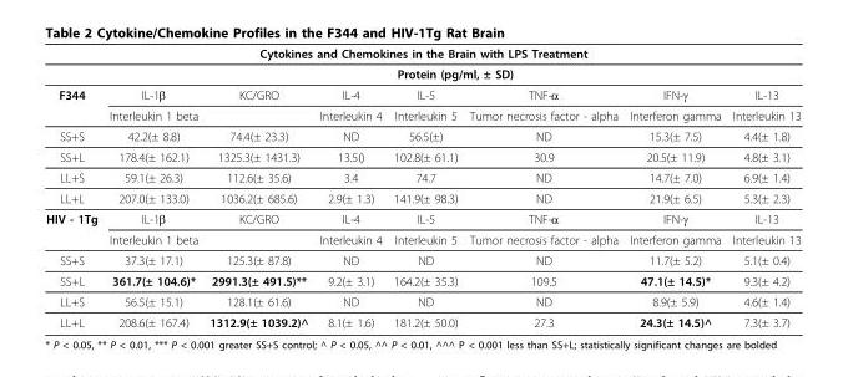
<table><thead><tr><td colspan="8">Cytokines and Chemokines in the Brain with LPS Treatment</td></tr><tr><td rowspan="2">F344</td><td colspan="7">Protein (pg/ml, ± SD)</td></tr><tr><td>IL-1β</td><td>KC/GRO</td><td>IL-4</td><td>IL-5</td><td>TNF-α</td><td>IFN-γ</td><td>IL-13</td></tr></thead><tbody><tr><td></td><td>Interleukin 1 beta</td><td></td><td>Interleukin 4</td><td>Interleukin 5</td><td>Tumor necrosis factor - alpha</td><td>Interferon gamma</td><td>Interleukin 13</td></tr><tr><td>SS+S</td><td>42.2(± 8.8)</td><td>74.4(± 23.3)</td><td>ND</td><td>56.5(±)</td><td>ND</td><td>15.3(± 7.5)</td><td>4.4(± 1.8)</td></tr><tr><td>SS+L</td><td>178.4(± 162.1)</td><td>1325.3(± 1431.3)</td><td>13.5()</td><td>102.8(± 61.1)</td><td>30.9</td><td>20.5(± 11.9)</td><td>4.8(± 3.1)</td></tr><tr><td>LL+S</td><td>59.1(± 26.3)</td><td>112.6(± 35.6)</td><td>3.4</td><td>74.7</td><td>ND</td><td>14.7(± 7.0)</td><td>6.9(± 1.4)</td></tr><tr><td>LL+L</td><td>207.0(± 133.0)</td><td>1036.2(± 685.6)</td><td>2.9(± 1.3)</td><td>141.9(± 98.3)</td><td>ND</td><td>21.9(± 6.5)</td><td>5.3(± 2.3)</td></tr><tr><td rowspan="2">HIV - 1Tg</td><td>IL-1β</td><td>KC/GRO</td><td>IL-4</td><td>IL-5</td><td>TNF-α</td><td>IFN-γ</td><td>IL-13</td></tr><tr><td>Interleukin 1 beta</td><td></td><td>Interleukin 4</td><td>Interleukin 5</td><td>Tumor necrosis factor - alpha</td><td>Interferon gamma</td><td>Interleukin 13</td></tr><tr><td>SS+S</td><td>37.3(± 17.1)</td><td>125.3(± 87.8)</td><td>ND</td><td>ND</td><td>ND</td><td>11.7(± 5.2)</td><td>5.1(± 0.4)</td></tr><tr><td>SS+L</td><td>361.7(± 104.6)*</td><td>2991.3(± 491.5)**</td><td>9.2(± 3.1)</td><td>164.2(± 35.3)</td><td>109.5</td><td>47.1(± 14.5)*</td><td>9.3(± 4.2)</td></tr><tr><td>LL+S</td><td>56.5(± 15.1)</td><td>128.1(± 61.6)</td><td>ND</td><td>ND</td><td>ND</td><td>8.9(± 5.9)</td><td>4.6(± 1.4)</td></tr><tr><td>LL+L</td><td>208.6(± 167.4)</td><td>1312.9(± 1039.2)^</td><td>8.1(± 1.6)</td><td>181.2(± 50.0)</td><td>27.3</td><td>24.3(± 14.5)^</td><td>7.3(± 3.7)</td></tr></tbody></table>